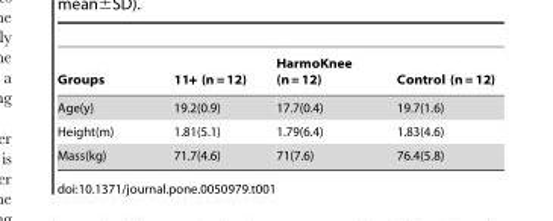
<table><thead><tr><td>Groups</td><td>11+ (n = 12)</td><td>HarmoKnee (n = 12)</td><td>Control (n = 12)</td></tr></thead><tbody><tr><td>Age(y)</td><td>19.2(0.9)</td><td>17.7(0.4)</td><td>19.7(1.6)</td></tr><tr><td>Height(m)</td><td>1.81(5.1)</td><td>1.79(6.4)</td><td>1.83(4.6)</td></tr><tr><td>Mass(kg)</td><td>71.7(4.6)</td><td>71(7.6)</td><td>76.4(5.8)</td></tr></tbody></table>